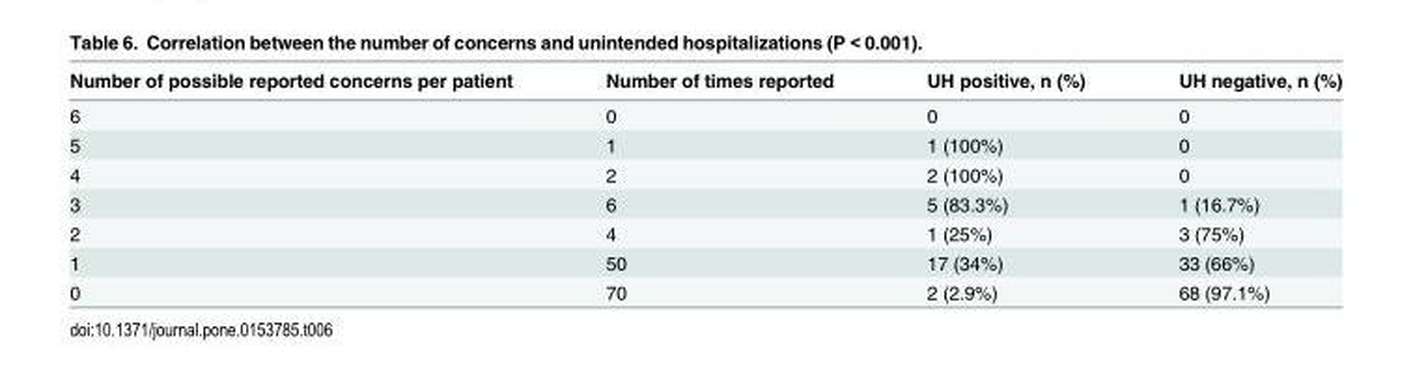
<table><thead><tr><td>Number of possible reported concerns per patient</td><td>Number of times reported</td><td>UH positive, n (%)</td><td>UH negative, n (%)</td></tr></thead><tbody><tr><td>6</td><td>0</td><td>0</td><td>0</td></tr><tr><td>5</td><td>1</td><td>1 (100%)</td><td>0</td></tr><tr><td>4</td><td>2</td><td>2 (100%)</td><td>0</td></tr><tr><td>3</td><td>6</td><td>5 (83.3%)</td><td>1 (16.7%)</td></tr><tr><td>2</td><td>4</td><td>1 (25%)</td><td>3 (75%)</td></tr><tr><td>1</td><td>50</td><td>17 (34%)</td><td>33 (66%)</td></tr><tr><td>0</td><td>70</td><td>2 (2.9%)</td><td>68 (97.1%)</td></tr></tbody></table>